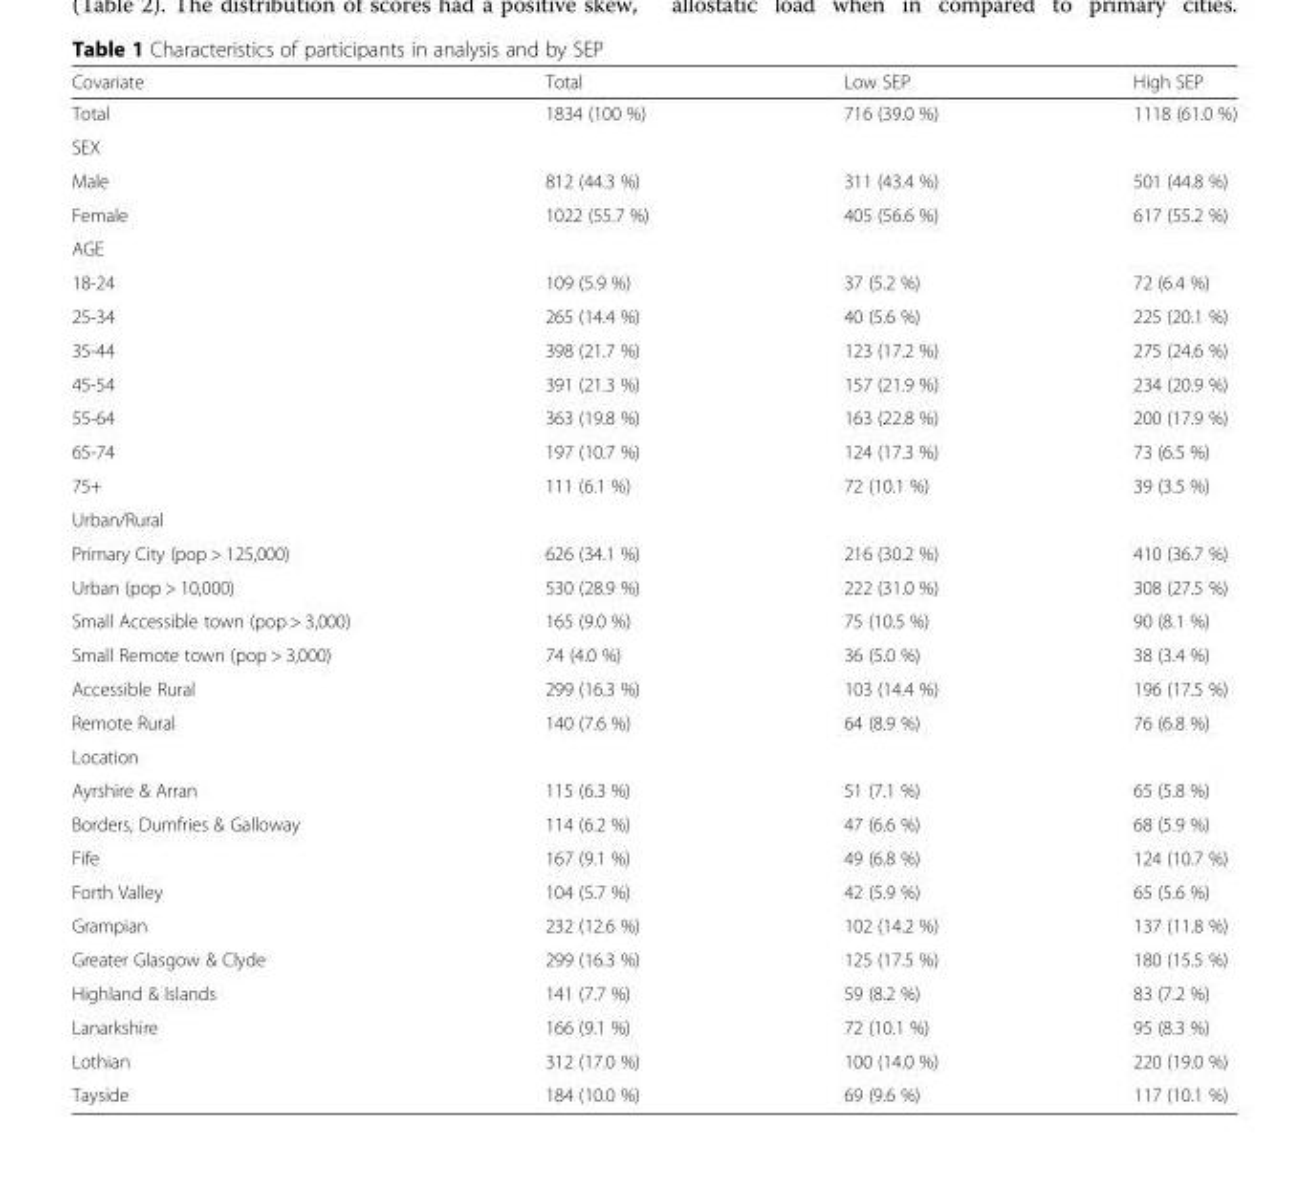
<table><thead><tr><td>Covariate</td><td>Total</td><td>Low SEP</td><td>High SEP</td></tr></thead><tbody><tr><td>Total</td><td>1834 (100 %)</td><td>716 (39.0 %)</td><td>1118 (61.0 %)</td></tr><tr><td colspan="4">SEX</td></tr><tr><td>Male</td><td>812 (44.3 %)</td><td>311 (43.4 %)</td><td>501 (44.8 %)</td></tr><tr><td>Female</td><td>1022 (55.7 %)</td><td>405 (56.6 %)</td><td>617 (55.2 %)</td></tr><tr><td colspan="4">AGE</td></tr><tr><td>18-24</td><td>109 (5.9 %)</td><td>37 (5.2 %)</td><td>72 (6.4 %)</td></tr><tr><td>25-34</td><td>265 (14.4 %)</td><td>40 (5.6 %)</td><td>225 (20.1 %)</td></tr><tr><td>35-44</td><td>398 (21.7 %)</td><td>123 (17.2 %)</td><td>275 (24.6 %)</td></tr><tr><td>45-54</td><td>391 (21.3 %)</td><td>157 (21.9 %)</td><td>234 (20.9 %)</td></tr><tr><td>55-64</td><td>363 (19.8 %)</td><td>163 (22.8 %)</td><td>200 (17.9 %)</td></tr><tr><td>65-74</td><td>197 (10.7 %)</td><td>124 (17.3 %)</td><td>73 (6.5 %)</td></tr><tr><td>75+</td><td>111 (6.1 %)</td><td>72 (10.1 %)</td><td>39 (3.5 %)</td></tr><tr><td colspan="4">Urban/Rural</td></tr><tr><td>Primary City (pop &gt; 125,000)</td><td>626 (34.1 %)</td><td>216 (30.2 %)</td><td>410 (36.7 %)</td></tr><tr><td>Urban (pop &gt; 10,000)</td><td>530 (28.9 %)</td><td>222 (31.0 %)</td><td>308 (27.5 %)</td></tr><tr><td>Small Accessible town (pop &gt; 3,000)</td><td>165 (9.0 %)</td><td>75 (10.5 %)</td><td>90 (8.1 %)</td></tr><tr><td>Small Remote town (pop &gt; 3,000)</td><td>74 (4.0 %)</td><td>36 (5.0 %)</td><td>38 (3.4 %)</td></tr><tr><td>Accessible Rural</td><td>299 (16.3 %)</td><td>103 (14.4 %)</td><td>196 (17.5 %)</td></tr><tr><td>Remote Rural</td><td>140 (7.6 %)</td><td>64 (8.9 %)</td><td>76 (6.8 %)</td></tr><tr><td colspan="4">Location</td></tr><tr><td>Ayrshire &amp; Arran</td><td>115 (6.3 %)</td><td>51 (7.1 %)</td><td>65 (5.8 %)</td></tr><tr><td>Borders, Dumfries &amp; Galloway</td><td>114 (6.2 %)</td><td>47 (6.6 %)</td><td>68 (5.9 %)</td></tr><tr><td>Fife</td><td>167 (9.1 %)</td><td>49 (6.8 %)</td><td>124 (10.7 %)</td></tr><tr><td>Forth Valley</td><td>104 (5.7 %)</td><td>42 (5.9 %)</td><td>65 (5.6 %)</td></tr><tr><td>Grampian</td><td>232 (12.6 %)</td><td>102 (14.2 %)</td><td>137 (11.8 %)</td></tr><tr><td>Greater Glasgow &amp; Clyde</td><td>299 (16.3 %)</td><td>125 (17.5 %)</td><td>180 (15.5 %)</td></tr><tr><td>Highland &amp; Islands</td><td>141 (7.7 %)</td><td>59 (8.2 %)</td><td>83 (7.2 %)</td></tr><tr><td>Lanarkshire</td><td>166 (9.1 %)</td><td>72 (10.1 %)</td><td>95 (8.3 %)</td></tr><tr><td>Lothian</td><td>312 (17.0 %)</td><td>100 (14.0 %)</td><td>220 (19.0 %)</td></tr><tr><td>Tayside</td><td>184 (10.0 %)</td><td>69 (9.6 %)</td><td>117 (10.1 %)</td></tr></tbody></table>